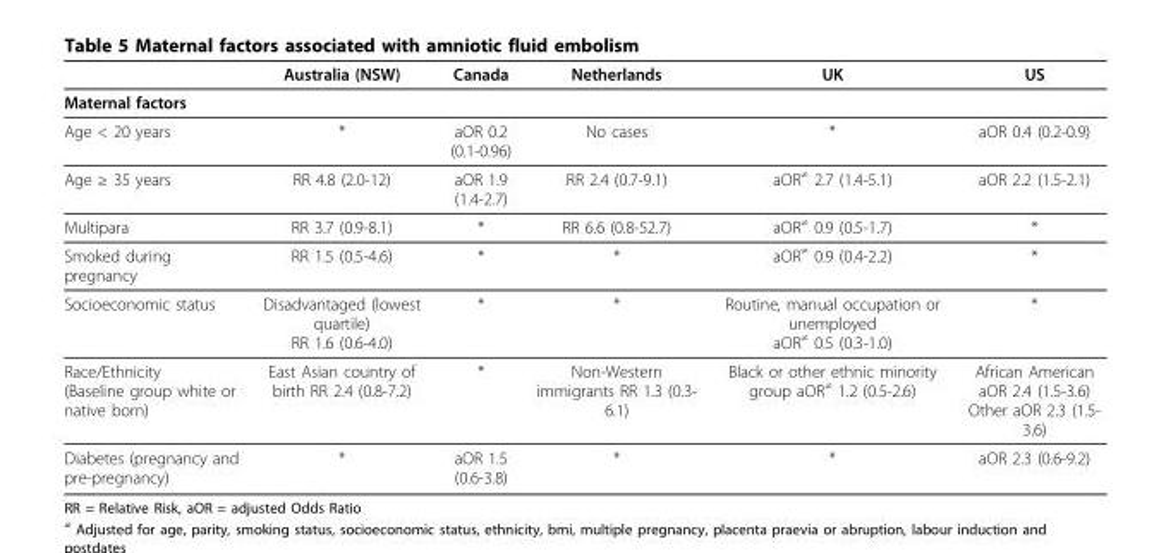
<table><thead><tr><td></td><td>Australia (NSW)</td><td>Canada</td><td>Netherlands</td><td>UK</td><td>US</td></tr></thead><tbody><tr><td colspan="6">Maternal factors</td></tr><tr><td>Age &lt; 20 years</td><td>*</td><td>aOR 0.2 (0.1-0.96)</td><td>No cases</td><td>*</td><td>aOR 0.4 (0.2-0.9)</td></tr><tr><td>Age ≥ 35 years</td><td>RR 4.8 (2.0-12)</td><td>aOR 1.9 (1.4-2.7)</td><td>RR 2.4 (0.7-9.1)</td><td>aOR≠ 2.7 (1.4-5.1)</td><td>aOR 2.2 (1.5-2.1)</td></tr><tr><td>Multipara</td><td>RR 3.7 (0.9-8.1)</td><td>*</td><td>RR 6.6 (0.8-52.7)</td><td>aOR≠ 0.9 (0.5-1.7)</td><td>*</td></tr><tr><td>Smoked during pregnancy</td><td>RR 1.5 (0.5-4.6)</td><td>*</td><td>*</td><td>aOR≠ 0.9 (0.4-2.2)</td><td>*</td></tr><tr><td>Socioeconomic status</td><td>Disadvantaged (lowest quartile) RR 1.6 (0.6-4.0)</td><td>*</td><td>*</td><td>Routine, manual occupation or unemployed aOR≠ 0.5 (0.3-1.0)</td><td>*</td></tr><tr><td>Race/Ethnicity (Baseline group white or native born)</td><td>East Asian country of birth RR 2.4 (0.8-7.2)</td><td>*</td><td>Non-Western immigrants RR 1.3 (0.3- 6.1)</td><td>Black or other ethnic minority group aOR≠ 1.2 (0.5-2.6)</td><td>African American aOR 2.4 (1.5-3.6) Other aOR 2.3 (1.5- 3.6)</td></tr><tr><td>Diabetes (pregnancy and pre-pregnancy)</td><td>*</td><td>aOR 1.5 (0.6-3.8)</td><td>*</td><td>*</td><td>aOR 2.3 (0.6-9.2)</td></tr></tbody></table>